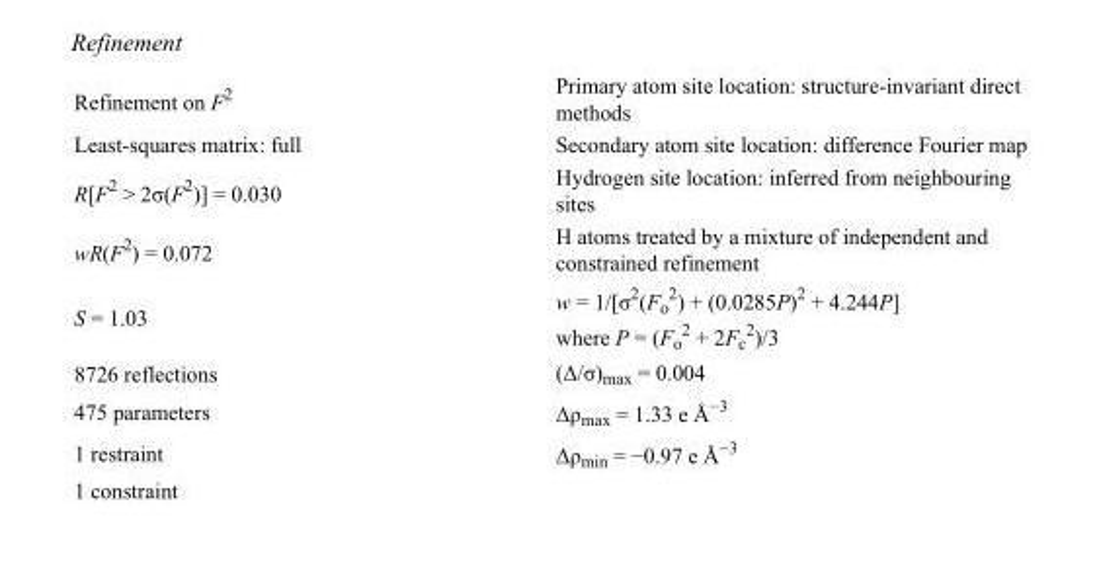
<table><tbody><tr><td>Refinement on F<sup>2</sup></td><td>Primary atom site location: structure-invariant direct methods</td></tr><tr><td>Least-squares matrix: full</td><td>Secondary atom site location: difference Fourier map</td></tr><tr><td>R[F<sup>2</sup> &gt; 2σ(F<sup>2</sup>)] = 0.030</td><td>Hydrogen site location: inferred from neighbouring sites</td></tr><tr><td>wR(F<sup>2</sup>) = 0.072</td><td>H atoms treated by a mixture of independent and constrained refinement</td></tr><tr><td>S = 1.03</td><td>w = 1/[σ<sup>2</sup>(F<sub>o</sub> <sup>2</sup>) + (0.0285P)<sup>2</sup> + 4.244P] where P = (F<sub>o</sub> <sup>2</sup> + 2F<sub>c</sub> <sup>2</sup>)/3</td></tr><tr><td>8726 reflections</td><td>(Δ/σ)<sub>max</sub> = 0.004</td></tr><tr><td>475 parameters</td><td>Δρ<sub>max</sub> = 1.33 e Å<sup>−3</sup></td></tr><tr><td>1 restraint</td><td>Δρ<sub>min</sub> = −0.97 e Å<sup>−3</sup></td></tr><tr><td>1 constraint</td><td></td></tr></tbody></table>